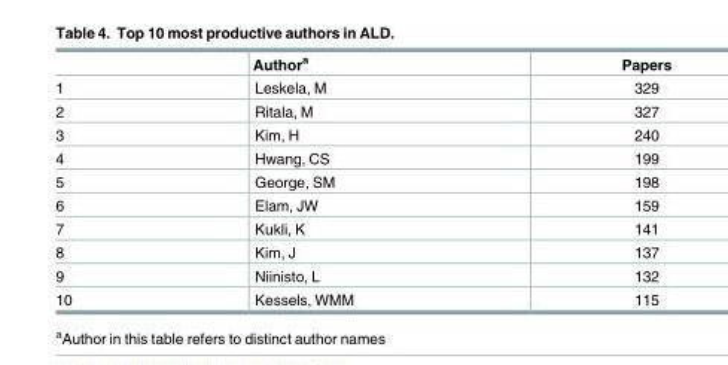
<table><thead><tr><td></td><td>Author<sup>a</sup></td><td>Papers</td></tr></thead><tbody><tr><td>1</td><td>Leskela, M</td><td>329</td></tr><tr><td>2</td><td>Ritala, M</td><td>327</td></tr><tr><td>3</td><td>Kim, H</td><td>240</td></tr><tr><td>4</td><td>Hwang, CS</td><td>199</td></tr><tr><td>5</td><td>George, SM</td><td>198</td></tr><tr><td>6</td><td>Elam, JW</td><td>159</td></tr><tr><td>7</td><td>Kukli, K</td><td>141</td></tr><tr><td>8</td><td>Kim, J</td><td>137</td></tr><tr><td>9</td><td>Niinisto, L</td><td>132</td></tr><tr><td>10</td><td>Kessels, WMM</td><td>115</td></tr></tbody></table>